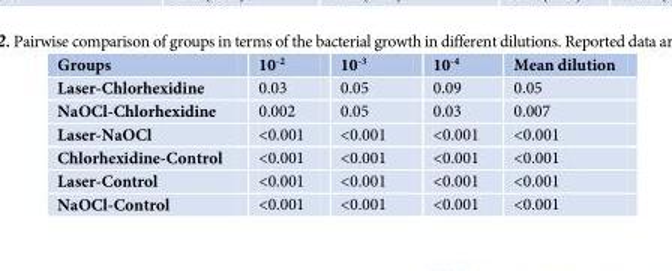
<table><thead><tr><td>Groups</td><td>10<sup>-2</sup></td><td>10<sup>-3</sup></td><td>10<sup>-4</sup></td><td>Mean dilution</td></tr></thead><tbody><tr><td>Laser-Chlorhexidine</td><td>0.03</td><td>0.05</td><td>0.09</td><td>0.05</td></tr><tr><td>NaOCl-Chlorhexidine</td><td>0.002</td><td>0.05</td><td>0.03</td><td>0.007</td></tr><tr><td>Laser-NaOCl</td><td>&lt;0.001</td><td>&lt;0.001</td><td>&lt;0.001</td><td>&lt;0.001</td></tr><tr><td>Chlorhexidine-Control</td><td>&lt;0.001</td><td>&lt;0.001</td><td>&lt;0.001</td><td>&lt;0.001</td></tr><tr><td>Laser-Control</td><td>&lt;0.001</td><td>&lt;0.001</td><td>&lt;0.001</td><td>&lt;0.001</td></tr><tr><td>NaOCl-Control</td><td>&lt;0.001</td><td>&lt;0.001</td><td>&lt;0.001</td><td>&lt;0.001</td></tr></tbody></table>